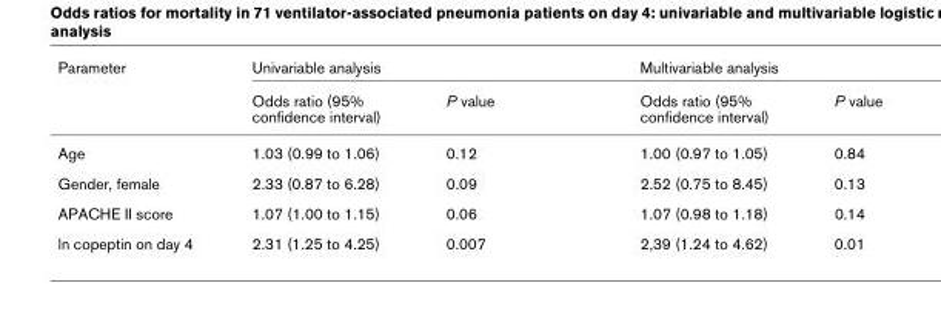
<table><thead><tr><td rowspan="2">Parameter</td><td colspan="2">Univariable analysis</td><td colspan="2">Multivariable analysis</td></tr><tr><td>Odds ratio (95% confidence interval)</td><td>P value</td><td>Odds ratio (95% confidence interval)</td><td>P value</td></tr></thead><tbody><tr><td>Age</td><td>1.03 (0.99 to 1.06)</td><td>0.12</td><td>1.00 (0.97 to 1.05)</td><td>0.84</td></tr><tr><td>Gender, female</td><td>2.33 (0.87 to 6.28)</td><td>0.09</td><td>2.52 (0.75 to 8.45)</td><td>0.13</td></tr><tr><td>APACHE II score</td><td>1.07 (1.00 to 1.15)</td><td>0.06</td><td>1.07 (0.98 to 1.18)</td><td>0.14</td></tr><tr><td>ln copeptin on day 4</td><td>2.31 (1.25 to 4.25)</td><td>0.007</td><td>2,39 (1.24 to 4.62)</td><td>0.01</td></tr></tbody></table>